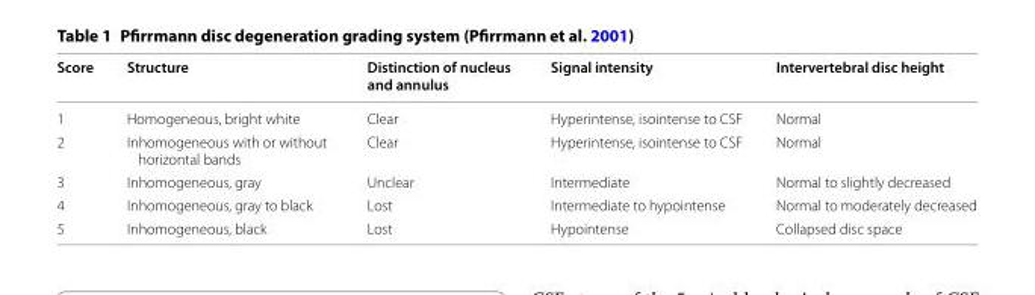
<table><thead><tr><td>Score</td><td>Structure</td><td>Distinction of nucleus and annulus</td><td>Signal intensity</td><td>Intervertebral disc height</td></tr></thead><tbody><tr><td>1</td><td>Homogeneous, bright white</td><td>Clear</td><td>Hyperintense, isointense to CSF</td><td>Normal</td></tr><tr><td>2</td><td>Inhomogeneous with or without horizontal bands</td><td>Clear</td><td>Hyperintense, isointense to CSF</td><td>Normal</td></tr><tr><td>3</td><td>Inhomogeneous, gray</td><td>Unclear</td><td>Intermediate</td><td>Normal to slightly decreased</td></tr><tr><td>4</td><td>Inhomogeneous, gray to black</td><td>Lost</td><td>Intermediate to hypointense</td><td>Normal to moderately decreased</td></tr><tr><td>5</td><td>Inhomogeneous, black</td><td>Lost</td><td>Hypointense</td><td>Collapsed disc space</td></tr></tbody></table>